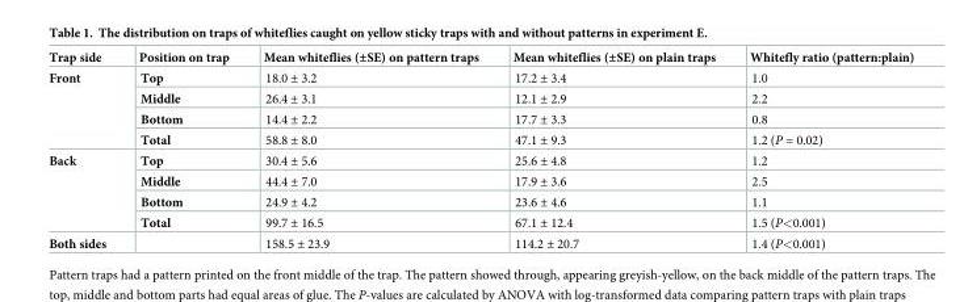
<table><thead><tr><td>Trap side</td><td>Position on trap</td><td>Mean whiteflies (±SE) on pattern traps</td><td>Mean whiteflies (±SE) on plain traps</td><td>Whitefly ratio (pattern:plain)</td></tr></thead><tbody><tr><td rowspan="4">Front</td><td>Top</td><td>18.0 ± 3.2</td><td>17.2 ± 3.4</td><td>1.0</td></tr><tr><td>Middle</td><td>26.4 ± 3.1</td><td>12.1 ± 2.9</td><td>2.2</td></tr><tr><td>Bottom</td><td>14.4 ± 2.2</td><td>17.7 ± 3.3</td><td>0.8</td></tr><tr><td>Total</td><td>58.8 ± 8.0</td><td>47.1 ± 9.3</td><td>1.2 (P = 0.02)</td></tr><tr><td rowspan="4">Back</td><td>Top</td><td>30.4 ± 5.6</td><td>25.6 ± 4.8</td><td>1.2</td></tr><tr><td>Middle</td><td>44.4 ± 7.0</td><td>17.9 ± 3.6</td><td>2.5</td></tr><tr><td>Bottom</td><td>24.9 ± 4.2</td><td>23.6 ± 4.6</td><td>1.1</td></tr><tr><td>Total</td><td>99.7 ± 16.5</td><td>67.1 ± 12.4</td><td>1.5 (P&lt;0.001)</td></tr><tr><td>Both sides</td><td></td><td>158.5 ± 23.9</td><td>114.2 ± 20.7</td><td>1.4 (P&lt;0.001)</td></tr></tbody></table>